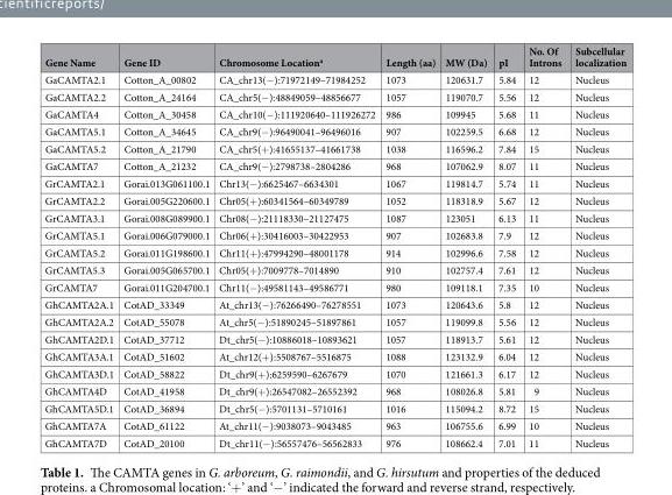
<table><thead><tr><td>Gene Name</td><td>Gene ID</td><td>Chromosome Location<sup>a</sup></td><td>Length (aa)</td><td>MW (Da)</td><td>pI</td><td>No. Of Introns</td><td>Subcellular localization</td></tr></thead><tbody><tr><td>GaCAMTA2.1</td><td>Cotton_A_00802</td><td>CA_chr13(−):71972149–71984252</td><td>1073</td><td>120631.7</td><td>5.84</td><td>12</td><td>Nucleus</td></tr><tr><td>GaCAMTA2.2</td><td>Cotton_A_24164</td><td>CA_chr5(−):48849059–48856677</td><td>1057</td><td>119070.7</td><td>5.56</td><td>12</td><td>Nucleus</td></tr><tr><td>GaCAMTA4</td><td>Cotton_A_30458</td><td>CA_chr10(−):111920640–111926272</td><td>986</td><td>109945</td><td>5.68</td><td>11</td><td>Nucleus</td></tr><tr><td>GaCAMTA5.1</td><td>Cotton_A_34645</td><td>CA_chr9(−):96490041–96496016</td><td>907</td><td>102259.5</td><td>6.68</td><td>12</td><td>Nucleus</td></tr><tr><td>GaCAMTA5.2</td><td>Cotton_A_21790</td><td>CA_chr5(+):41655137–41661738</td><td>1038</td><td>116596.2</td><td>7.84</td><td>15</td><td>Nucleus</td></tr><tr><td>GaCAMTA7</td><td>Cotton_A_21232</td><td>CA_chr9(−):2798738–2804286</td><td>968</td><td>107062.9</td><td>8.07</td><td>11</td><td>Nucleus</td></tr><tr><td>GrCAMTA2.1</td><td>Gorai.013G061100.1</td><td>Chr13(−):6625467–6634301</td><td>1067</td><td>119814.7</td><td>5.74</td><td>11</td><td>Nucleus</td></tr><tr><td>GrCAMTA2.2</td><td>Gorai.005G220600.1</td><td>Chr05(+):60341564–60349789</td><td>1052</td><td>118318.9</td><td>5.67</td><td>12</td><td>Nucleus</td></tr><tr><td>GrCAMTA3.1</td><td>Gorai.008G089900.1</td><td>Chr08(−):21118330–21127475</td><td>1087</td><td>123051</td><td>6.13</td><td>11</td><td>Nucleus</td></tr><tr><td>GrCAMTA5.1</td><td>Gorai.006G079000.1</td><td>Chr06(+):30416003–30422953</td><td>907</td><td>102683.8</td><td>7.9</td><td>12</td><td>Nucleus</td></tr><tr><td>GrCAMTA5.2</td><td>Gorai.011G198600.1</td><td>Chr11(+):47994290–48001178</td><td>914</td><td>102996.6</td><td>7.58</td><td>12</td><td>Nucleus</td></tr><tr><td>GrCAMTA5.3</td><td>Gorai.005G065700.1</td><td>Chr05(+):7009778–7014890</td><td>910</td><td>102757.4</td><td>7.61</td><td>12</td><td>Nucleus</td></tr><tr><td>GrCAMTA7</td><td>Gorai.011G204700.1</td><td>Chr11(−):49581143–49586771</td><td>980</td><td>109118.1</td><td>7.35</td><td>10</td><td>Nucleus</td></tr><tr><td>GhCAMTA2A.1</td><td>CotAD_33349</td><td>At_chr13(−):76266490–76278551</td><td>1073</td><td>120643.6</td><td>5.8</td><td>12</td><td>Nucleus</td></tr><tr><td>GhCAMTA2A.2</td><td>CotAD_55078</td><td>At_chr5(−):51890245–51897861</td><td>1057</td><td>119099.8</td><td>5.56</td><td>12</td><td>Nucleus</td></tr><tr><td>GhCAMTA2D.1</td><td>CotAD_37712</td><td>Dt_chr5(−):10886018–10893621</td><td>1057</td><td>118913.7</td><td>5.61</td><td>12</td><td>Nucleus</td></tr><tr><td>GhCAMTA3A.1</td><td>CotAD_51602</td><td>At_chr12(+):5508767–5516875</td><td>1088</td><td>123132.9</td><td>6.04</td><td>12</td><td>Nucleus</td></tr><tr><td>GhCAMTA3D.1</td><td>CotAD_58822</td><td>Dt_chr9(+):6259590–6267679</td><td>1070</td><td>121661.3</td><td>6.17</td><td>12</td><td>Nucleus</td></tr><tr><td>GhCAMTA4D</td><td>CotAD_41958</td><td>Dt_chr9(+):26547082–26552392</td><td>968</td><td>108026.8</td><td>5.81</td><td>9</td><td>Nucleus</td></tr><tr><td>GhCAMTA5D.1</td><td>CotAD_36894</td><td>Dt_chr5(−):5701131–5710161</td><td>1016</td><td>115094.2</td><td>8.72</td><td>15</td><td>Nucleus</td></tr><tr><td>GhCAMTA7A</td><td>CotAD_61122</td><td>At_chr11(−):9038073–9043485</td><td>963</td><td>106755.6</td><td>6.99</td><td>10</td><td>Nucleus</td></tr><tr><td>GhCAMTA7D</td><td>CotAD_20100</td><td>Dt_chr11(−):56557476–56562833</td><td>976</td><td>108662.4</td><td>7.01</td><td>11</td><td>Nucleus</td></tr></tbody></table>